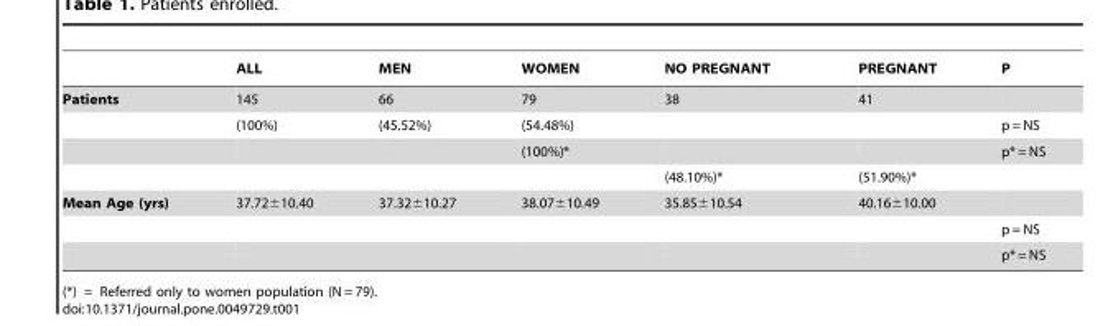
<table><thead><tr><td></td><td>ALL</td><td>MEN</td><td>WOMEN</td><td>NO PREGNANT</td><td>PREGNANT</td><td>P</td></tr></thead><tbody><tr><td rowspan="4">Patients</td><td>145</td><td>66</td><td>79</td><td>38</td><td>41</td><td></td></tr><tr><td>(100%)</td><td>(45.52%)</td><td>(54.48%)</td><td></td><td></td><td>p = NS</td></tr><tr><td></td><td></td><td>(100%)*</td><td></td><td></td><td>p* = NS</td></tr><tr><td></td><td></td><td></td><td>(48.10%)*</td><td>(51.90%)*</td><td></td></tr><tr><td rowspan="3">Mean Age (yrs)</td><td>37.72±10.40</td><td>37.32±10.27</td><td>38.07±10.49</td><td>35.85±10.54</td><td>40.16±10.00</td><td></td></tr><tr><td></td><td></td><td></td><td></td><td></td><td>p = NS</td></tr><tr><td></td><td></td><td></td><td></td><td></td><td>p* = NS</td></tr></tbody></table>